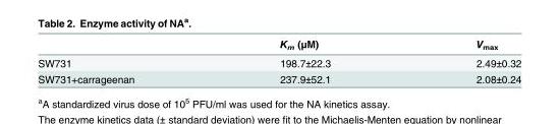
<table><thead><tr><td></td><td>K<sub>m</sub> (μM)</td><td>V<sub>max</sub></td></tr></thead><tbody><tr><td>SW731</td><td>198.7±22.3</td><td>2.49±0.32</td></tr><tr><td>SW731+carrageenan</td><td>237.9±52.1</td><td>2.08±0.24</td></tr></tbody></table>